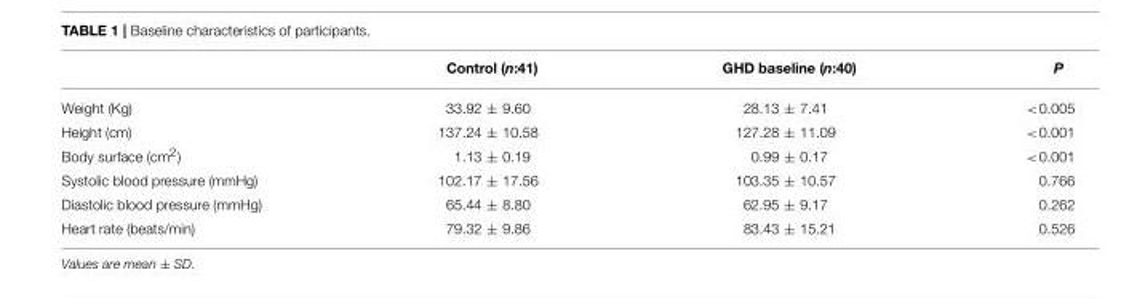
<table><thead><tr><td></td><td>Control (n:41)</td><td>GHD baseline (n:40)</td><td>P</td></tr></thead><tbody><tr><td>Weight (Kg)</td><td>33.92 ± 9.60</td><td>28.13 ± 7.41</td><td>&lt;0.005</td></tr><tr><td>Height (cm)</td><td>137.24 ± 10.58</td><td>127.28 ± 11.09</td><td>&lt;0.001</td></tr><tr><td>Body surface (cm<sup>2</sup>)</td><td>1.13 ± 0.19</td><td>0.99 ± 0.17</td><td>&lt;0.001</td></tr><tr><td>Systolic blood pressure (mmHg)</td><td>102.17 ± 17.56</td><td>103.35 ± 10.57</td><td>0.766</td></tr><tr><td>Diastolic blood pressure (mmHg)</td><td>65.44 ± 8.80</td><td>62.95 ± 9.17</td><td>0.262</td></tr><tr><td>Heart rate (beats/min)</td><td>79.32 ± 9.86</td><td>83.43 ± 15.21</td><td>0.526</td></tr></tbody></table>